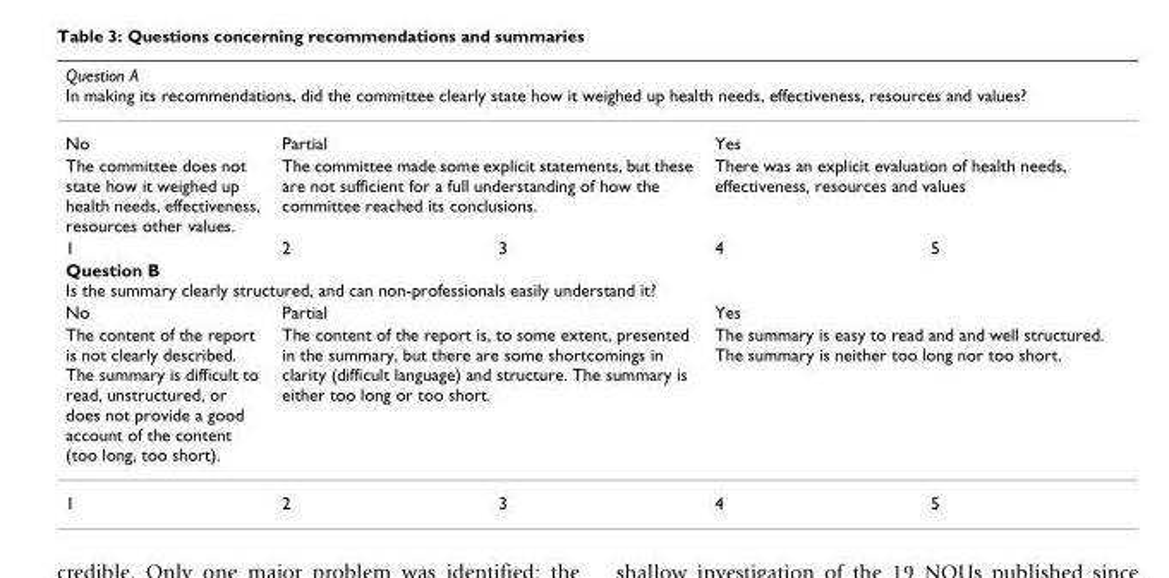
<table><thead><tr><td colspan="5">Question A In making its recommendations, did the committee clearly state how it weighed up health needs, effectiveness, resources and values?</td></tr><tr><td>No</td><td>Partial</td><td></td><td>Yes</td><td></td></tr></thead><tbody><tr><td>The committee does not state how it weighed up health needs, effectiveness, resources other values.</td><td colspan="2">The committee made some explicit statements, but these are not sufficient for a full understanding of how the committee reached its conclusions.</td><td colspan="2">There was an explicit evaluation of health needs, effectiveness, resources and values</td></tr><tr><td>1</td><td>2</td><td>3</td><td>4</td><td>5</td></tr><tr><td colspan="5">Question B Is the summary clearly structured, and can non-professionals easily understand it?</td></tr><tr><td>No</td><td>Partial</td><td></td><td>Yes</td><td></td></tr><tr><td>The content of the report is not clearly described. The summary is difficult to read, unstructured, or does not provide a good account of the content (too long, too short).</td><td colspan="2">The content of the report is, to some extent, presented in the summary, but there are some shortcomings in clarity (difficult language) and structure. The summary is either too long or too short.</td><td colspan="2">The summary is easy to read and and well structured. The summary is neither too long nor too short.</td></tr><tr><td>1</td><td>2</td><td>3</td><td>4</td><td>5</td></tr></tbody></table>